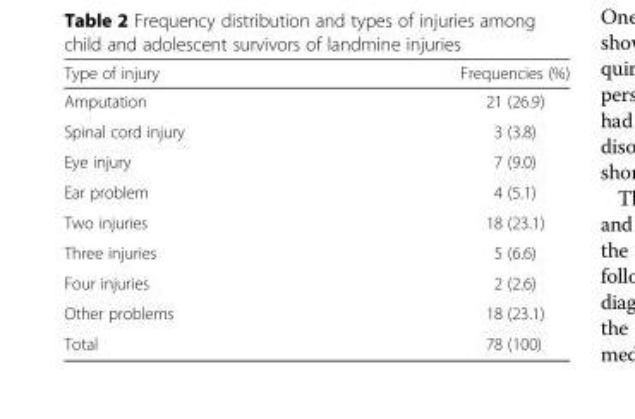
<table><thead><tr><td>Type of injury</td><td>Frequencies (%)</td></tr></thead><tbody><tr><td>Amputation</td><td>21 (26.9)</td></tr><tr><td>Spinal cord injury</td><td>3 (3.8)</td></tr><tr><td>Eye injury</td><td>7 (9.0)</td></tr><tr><td>Ear problem</td><td>4 (5.1)</td></tr><tr><td>Two injuries</td><td>18 (23.1)</td></tr><tr><td>Three injuries</td><td>5 (6.6)</td></tr><tr><td>Four injuries</td><td>2 (2.6)</td></tr><tr><td>Other problems</td><td>18 (23.1)</td></tr><tr><td>Total</td><td>78 (100)</td></tr></tbody></table>